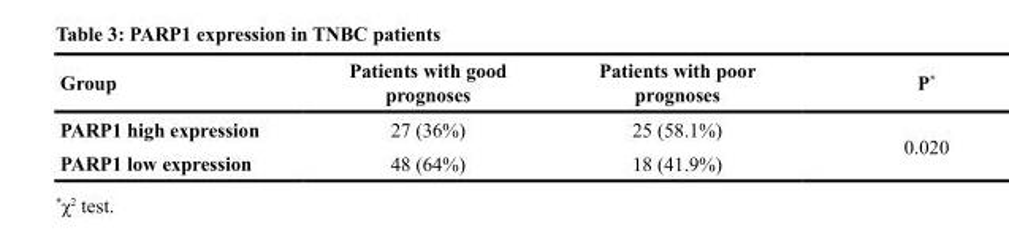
<table><thead><tr><td>Group</td><td>Patients with good prognoses</td><td>Patients with poor prognoses</td><td>P*</td></tr></thead><tbody><tr><td>PARP1 high expression</td><td>27 (36%)</td><td>25 (58.1%)</td><td rowspan="2">0.020</td></tr><tr><td>PARP1 low expression</td><td>48 (64%)</td><td>18 (41.9%)</td></tr></tbody></table>